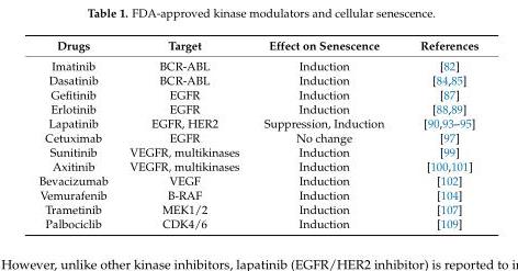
<table><thead><tr><td>Drugs</td><td>Target</td><td>Effect on Senescence</td><td>References</td></tr></thead><tbody><tr><td>Imatinib</td><td>BCR-ABL</td><td>Induction</td><td>[82]</td></tr><tr><td>Dasatinib</td><td>BCR-ABL</td><td>Induction</td><td>[84,85]</td></tr><tr><td>Gefitinib</td><td>EGFR</td><td>Induction</td><td>[87]</td></tr><tr><td>Erlotinib</td><td>EGFR</td><td>Induction</td><td>[88,89]</td></tr><tr><td>Lapatinib</td><td>EGFR, HER2</td><td>Suppression, Induction</td><td>[90,93–95]</td></tr><tr><td>Cetuximab</td><td>EGFR</td><td>No change</td><td>[97]</td></tr><tr><td>Sunitinib</td><td>VEGFR, multikinases</td><td>Induction</td><td>[99]</td></tr><tr><td>Axitinib</td><td>VEGFR, multikinases</td><td>Induction</td><td>[100,101]</td></tr><tr><td>Bevacizumab</td><td>VEGF</td><td>Induction</td><td>[102]</td></tr><tr><td>Vemurafenib</td><td>B-RAF</td><td>Induction</td><td>[104]</td></tr><tr><td>Trametinib</td><td>MEK1/2</td><td>Induction</td><td>[107]</td></tr><tr><td>Palbociclib</td><td>CDK4/6</td><td>Induction</td><td>[109]</td></tr></tbody></table>